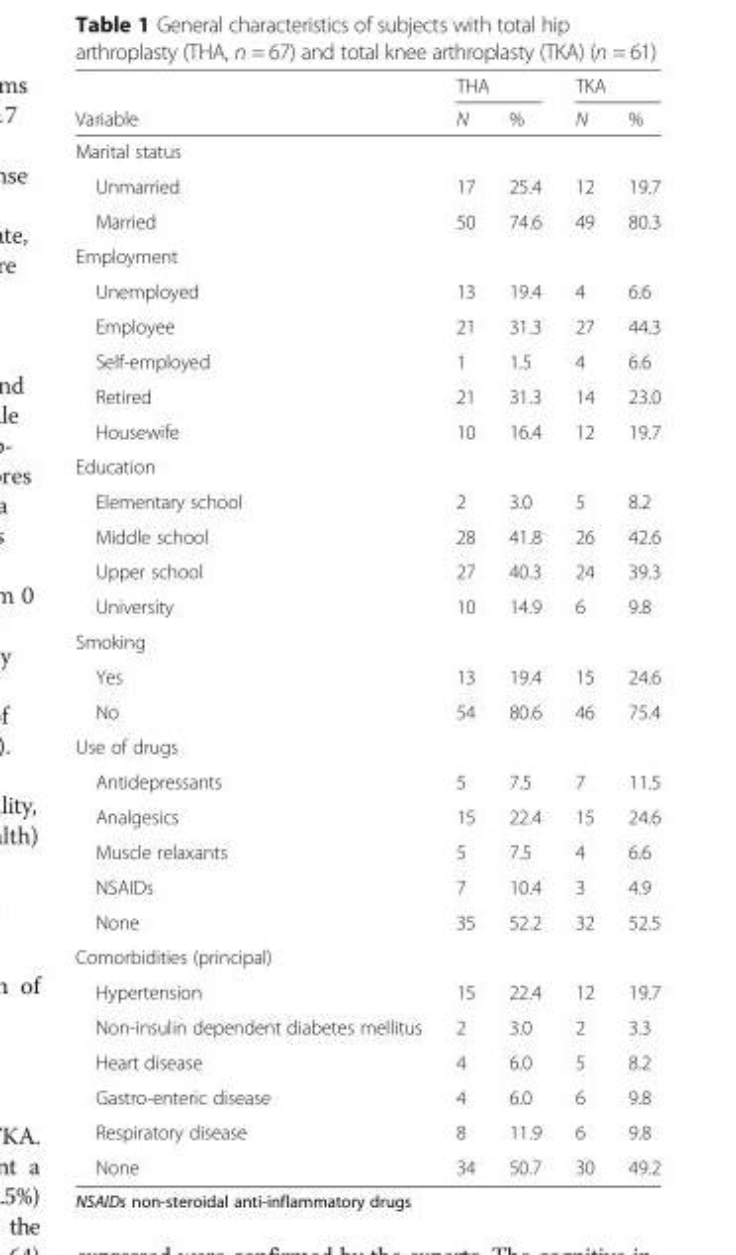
<table><thead><tr><td rowspan="2">Variable</td><td colspan="2">THA</td><td colspan="2">TKA</td></tr><tr><td>N</td><td>%</td><td>N</td><td>%</td></tr></thead><tbody><tr><td colspan="5">Marital status</td></tr><tr><td>Unmarried</td><td>17</td><td>25.4</td><td>12</td><td>19.7</td></tr><tr><td>Married</td><td>50</td><td>74.6</td><td>49</td><td>80.3</td></tr><tr><td colspan="5">Employment</td></tr><tr><td>Unemployed</td><td>13</td><td>19.4</td><td>4</td><td>6.6</td></tr><tr><td>Employee</td><td>21</td><td>31.3</td><td>27</td><td>44.3</td></tr><tr><td>Self-employed</td><td>1</td><td>1.5</td><td>4</td><td>6.6</td></tr><tr><td>Retired</td><td>21</td><td>31.3</td><td>14</td><td>23.0</td></tr><tr><td>Housewife</td><td>10</td><td>16.4</td><td>12</td><td>19.7</td></tr><tr><td colspan="5">Education</td></tr><tr><td>Elementary school</td><td>2</td><td>3.0</td><td>5</td><td>8.2</td></tr><tr><td>Middle school</td><td>28</td><td>41.8</td><td>26</td><td>42.6</td></tr><tr><td>Upper school</td><td>27</td><td>40.3</td><td>24</td><td>39.3</td></tr><tr><td>University</td><td>10</td><td>14.9</td><td>6</td><td>9.8</td></tr><tr><td colspan="5">Smoking</td></tr><tr><td>Yes</td><td>13</td><td>19.4</td><td>15</td><td>24.6</td></tr><tr><td>No</td><td>54</td><td>80.6</td><td>46</td><td>75.4</td></tr><tr><td colspan="5">Use of drugs</td></tr><tr><td>Antidepressants</td><td>5</td><td>7.5</td><td>7</td><td>11.5</td></tr><tr><td>Analgesics</td><td>15</td><td>22.4</td><td>15</td><td>24.6</td></tr><tr><td>Muscle relaxants</td><td>5</td><td>7.5</td><td>4</td><td>6.6</td></tr><tr><td>NSAIDs</td><td>7</td><td>10.4</td><td>3</td><td>4.9</td></tr><tr><td>None</td><td>35</td><td>52.2</td><td>32</td><td>52.5</td></tr><tr><td colspan="5">Comorbidities (principal)</td></tr><tr><td>Hypertension</td><td>15</td><td>22.4</td><td>12</td><td>19.7</td></tr><tr><td>Non-insulin dependent diabetes mellitus</td><td>2</td><td>3.0</td><td>2</td><td>3.3</td></tr><tr><td>Heart disease</td><td>4</td><td>6.0</td><td>5</td><td>8.2</td></tr><tr><td>Gastro-enteric disease</td><td>4</td><td>6.0</td><td>6</td><td>9.8</td></tr><tr><td>Respiratory disease</td><td>8</td><td>11.9</td><td>6</td><td>9.8</td></tr><tr><td>None</td><td>34</td><td>50.7</td><td>30</td><td>49.2</td></tr></tbody></table>